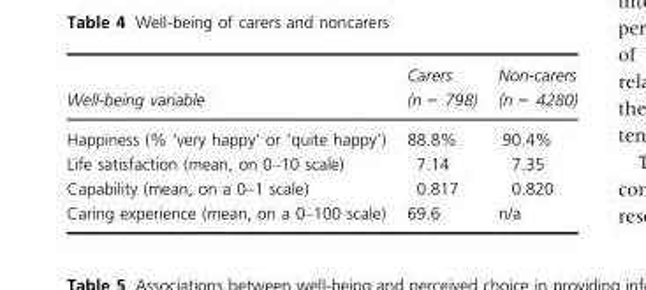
<table><thead><tr><td>Well-being variable</td><td>Carers (n = 798)</td><td>Non-carers (n = 4280)</td></tr></thead><tbody><tr><td>Happiness (% ‘very happy’ or ‘quite happy’)</td><td>88.8%</td><td>90.4%</td></tr><tr><td>Life satisfaction (mean, on 0–10 scale)</td><td>7.14</td><td>7.35</td></tr><tr><td>Capability (mean, on a 0–1 scale)</td><td>0.817</td><td>0.820</td></tr><tr><td>Caring experience (mean, on a 0–100 scale)</td><td>69.6</td><td>n/a</td></tr></tbody></table>